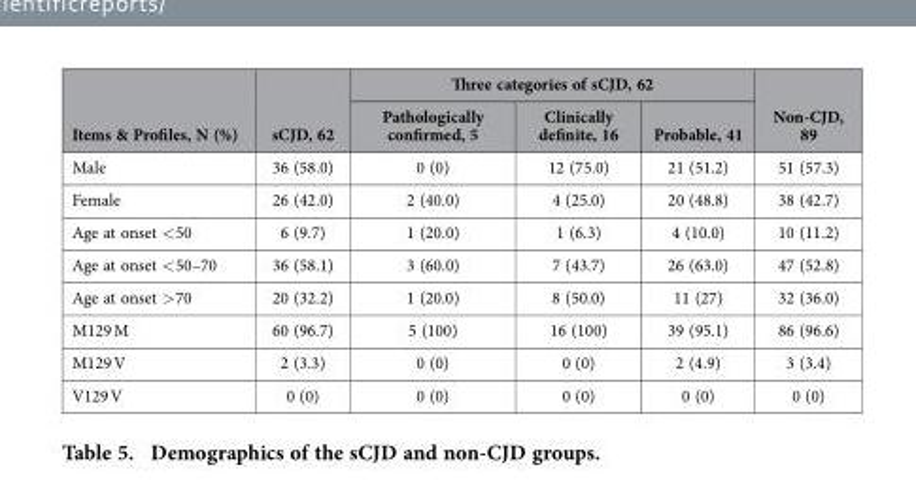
<table><thead><tr><td rowspan="2">Items &amp; Profiles, N (%)</td><td rowspan="2">sCJD, 62</td><td colspan="3">Three categories of sCJD, 62</td><td rowspan="2">Non-CJD, 89</td></tr><tr><td>Pathologically confirmed, 5</td><td>Clinically definite, 16</td><td>Probable, 41</td></tr></thead><tbody><tr><td>Male</td><td>36 (58.0)</td><td>0 (0)</td><td>12 (75.0)</td><td>21 (51.2)</td><td>51 (57.3)</td></tr><tr><td>Female</td><td>26 (42.0)</td><td>2 (40.0)</td><td>4 (25.0)</td><td>20 (48.8)</td><td>38 (42.7)</td></tr><tr><td>Age at onset &lt; 50</td><td>6 (9.7)</td><td>1 (20.0)</td><td>1 (6.3)</td><td>4 (10.0)</td><td>10 (11.2)</td></tr><tr><td>Age at onset &lt; 50–70</td><td>36 (58.1)</td><td>3 (60.0)</td><td>7 (43.7)</td><td>26 (63.0)</td><td>47 (52.8)</td></tr><tr><td>Age at onset &gt; 70</td><td>20 (32.2)</td><td>1 (20.0)</td><td>8 (50.0)</td><td>11 (27)</td><td>32 (36.0)</td></tr><tr><td>M129 M</td><td>60 (96.7)</td><td>5 (100)</td><td>16 (100)</td><td>39 (95.1)</td><td>86 (96.6)</td></tr><tr><td>M129 V</td><td>2 (3.3)</td><td>0 (0)</td><td>0 (0)</td><td>2 (4.9)</td><td>3 (3.4)</td></tr><tr><td>V129 V</td><td>0 (0)</td><td>0 (0)</td><td>0 (0)</td><td>0 (0)</td><td>0 (0)</td></tr></tbody></table>